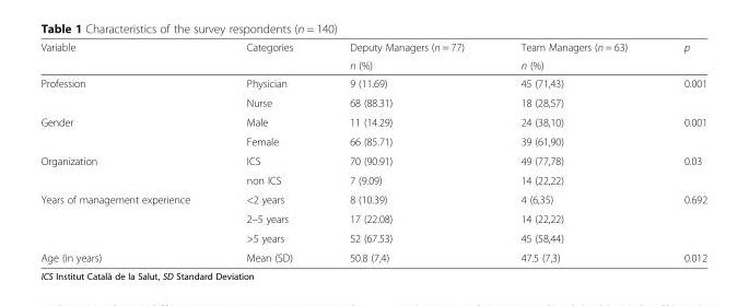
<table><thead><tr><td rowspan="2">Variable</td><td rowspan="2">Categories</td><td rowspan="2">Deputy Managers (n = 77) n (%)</td><td rowspan="2">Team Managers (n = 63) n (%)</td><td rowspan="2">p</td></tr><tr></tr></thead><tbody><tr><td rowspan="2">Profession</td><td>Physician</td><td>9 (11.69)</td><td>45 (71,43)</td><td rowspan="2">0.001</td></tr><tr><td>Nurse</td><td>68 (88.31)</td><td>18 (28,57)</td></tr><tr><td rowspan="2">Gender</td><td>Male</td><td>11 (14.29)</td><td>24 (38,10)</td><td rowspan="2">0.001</td></tr><tr><td>Female</td><td>66 (85.71)</td><td>39 (61,90)</td></tr><tr><td rowspan="2">Organization</td><td>ICS</td><td>70 (90.91)</td><td>49 (77,78)</td><td rowspan="2">0.03</td></tr><tr><td>non ICS</td><td>7 (9.09)</td><td>14 (22,22)</td></tr><tr><td rowspan="3">Years of management experience</td><td>&lt;2 years</td><td>8 (10.39)</td><td>4 (6,35)</td><td rowspan="3">0.692</td></tr><tr><td>2–5 years</td><td>17 (22.08)</td><td>14 (22,22)</td></tr><tr><td>&gt;5 years</td><td>52 (67.53)</td><td>45 (58,44)</td></tr><tr><td>Age (in years)</td><td>Mean (SD)</td><td>50.8 (7,4)</td><td>47.5 (7,3)</td><td>0.012</td></tr></tbody></table>